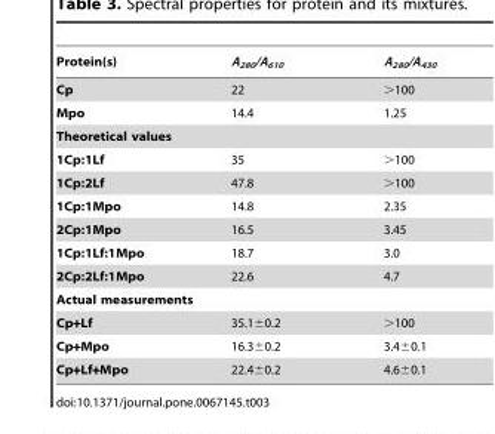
<table><thead><tr><td>Protein(s)</td><td>A<sub>280</sub>/A<sub>610</sub></td><td>A<sub>280</sub>/A<sub>430</sub></td></tr></thead><tbody><tr><td>Cp</td><td>22</td><td>&gt;100</td></tr><tr><td>Mpo</td><td>14.4</td><td>1.25</td></tr><tr><td colspan="3">Theoretical values</td></tr><tr><td>1Cp:1Lf</td><td>35</td><td>&gt;100</td></tr><tr><td>1Cp:2Lf</td><td>47.8</td><td>&gt;100</td></tr><tr><td>1Cp:1Mpo</td><td>14.8</td><td>2.35</td></tr><tr><td>2Cp:1Mpo</td><td>16.5</td><td>3.45</td></tr><tr><td>1Cp:1Lf:1Mpo</td><td>18.7</td><td>3.0</td></tr><tr><td>2Cp:2Lf:1Mpo</td><td>22.6</td><td>4.7</td></tr><tr><td colspan="3">Actual measurements</td></tr><tr><td>Cp+Lf</td><td>35.1±0.2</td><td>&gt;100</td></tr><tr><td>Cp+Mpo</td><td>16.3±0.2</td><td>3.4±0.1</td></tr><tr><td>Cp+Lf+Mpo</td><td>22.4±0.2</td><td>4.6±0.1</td></tr></tbody></table>